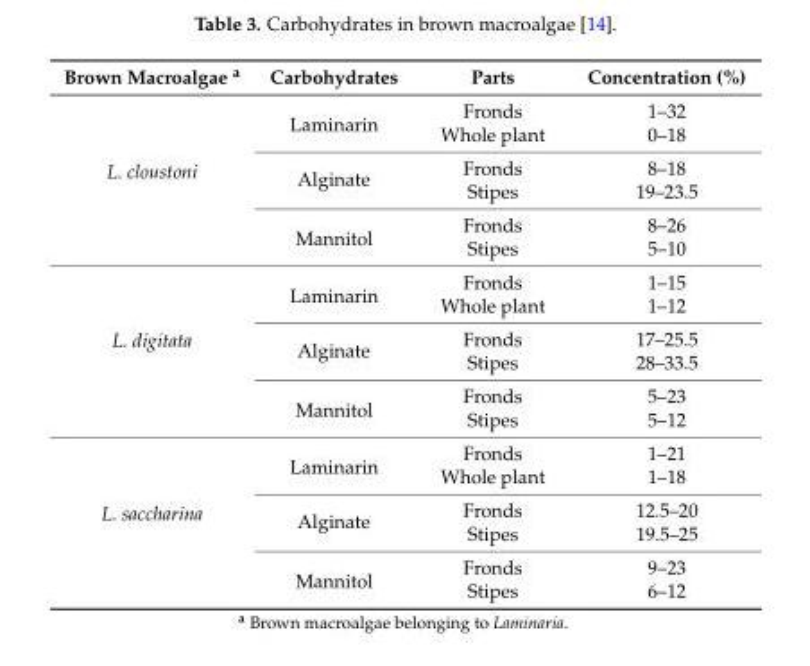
<table><thead><tr><td>Brown Macroalgae <sup>a</sup></td><td>Carbohydrates</td><td>Parts</td><td>Concentration (%)</td></tr></thead><tbody><tr><td rowspan="6">L. cloustoni</td><td rowspan="2">Laminarin</td><td>Fronds</td><td>1–32</td></tr><tr><td>Whole plant</td><td>0–18</td></tr><tr><td rowspan="2">Alginate</td><td>Fronds</td><td>8–18</td></tr><tr><td>Stipes</td><td>19–23.5</td></tr><tr><td rowspan="2">Mannitol</td><td>Fronds</td><td>8–26</td></tr><tr><td>Stipes</td><td>5–10</td></tr><tr><td rowspan="6">L. digitata</td><td rowspan="2">Laminarin</td><td>Fronds</td><td>1–15</td></tr><tr><td>Whole plant</td><td>1–12</td></tr><tr><td rowspan="2">Alginate</td><td>Fronds</td><td>17–25.5</td></tr><tr><td>Stipes</td><td>28–33.5</td></tr><tr><td rowspan="2">Mannitol</td><td>Fronds</td><td>5–23</td></tr><tr><td>Stipes</td><td>5–12</td></tr><tr><td rowspan="6">L. saccharina</td><td rowspan="2">Laminarin</td><td>Fronds</td><td>1–21</td></tr><tr><td>Whole plant</td><td>1–18</td></tr><tr><td rowspan="2">Alginate</td><td>Fronds</td><td>12.5–20</td></tr><tr><td>Stipes</td><td>19.5–25</td></tr><tr><td rowspan="2">Mannitol</td><td>Fronds</td><td>9–23</td></tr><tr><td>Stipes</td><td>6–12</td></tr></tbody></table>